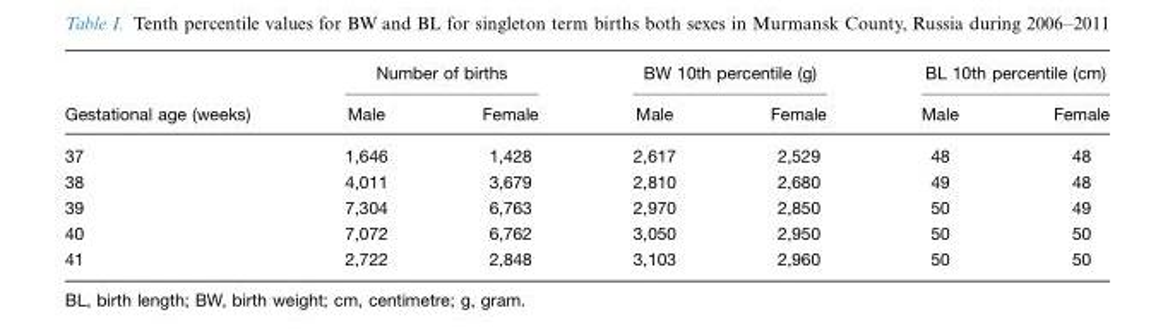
<table><thead><tr><td rowspan="2">Gestational age (weeks)</td><td colspan="2">Number of births</td><td colspan="2">BW 10th percentile (g)</td><td colspan="2">BL 10th percentile (cm)</td></tr><tr><td>Male</td><td>Female</td><td>Male</td><td>Female</td><td>Male</td><td>Female</td></tr></thead><tbody><tr><td>37</td><td>1,646</td><td>1,428</td><td>2,617</td><td>2,529</td><td>48</td><td>48</td></tr><tr><td>38</td><td>4,011</td><td>3,679</td><td>2,810</td><td>2,680</td><td>49</td><td>48</td></tr><tr><td>39</td><td>7,304</td><td>6,763</td><td>2,970</td><td>2,850</td><td>50</td><td>49</td></tr><tr><td>40</td><td>7,072</td><td>6,762</td><td>3,050</td><td>2,950</td><td>50</td><td>50</td></tr><tr><td>41</td><td>2,722</td><td>2,848</td><td>3,103</td><td>2,960</td><td>50</td><td>50</td></tr></tbody></table>